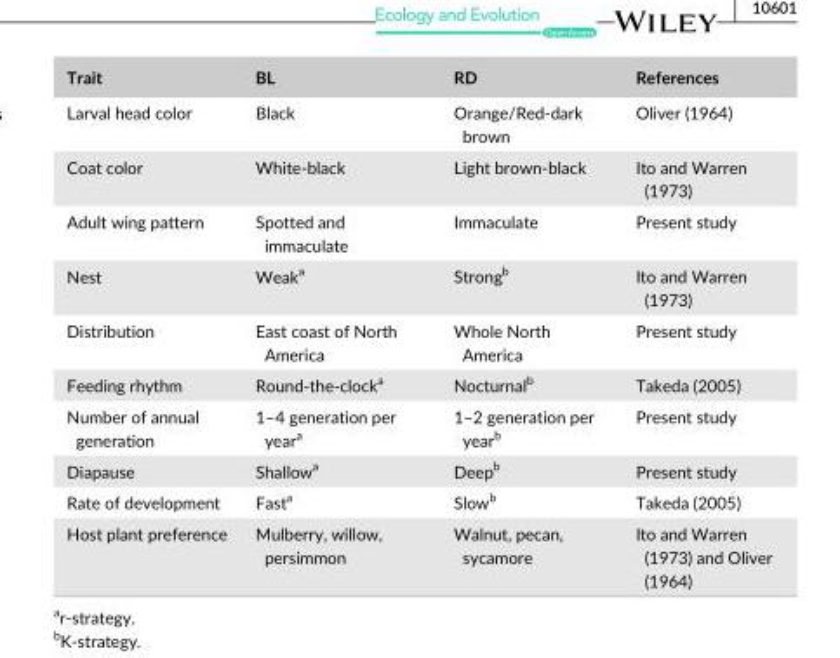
<table><thead><tr><td>Trait</td><td>BL</td><td>RD</td><td>References</td></tr></thead><tbody><tr><td>Larval head color</td><td>Black</td><td>Orange/Red- dark brown</td><td>Oliver (1964)</td></tr><tr><td>Coat color</td><td>White- black</td><td>Light brown- black</td><td>Ito and Warren (1973)</td></tr><tr><td>Adult wing pattern</td><td>Spotted and immaculate</td><td>Immaculate</td><td>Present study</td></tr><tr><td>Nest</td><td>Weak<sup>a</sup></td><td>Strong<sup>b</sup></td><td>Ito and Warren (1973)</td></tr><tr><td>Distribution</td><td>East coast of North America</td><td>Whole North America</td><td>Present study</td></tr><tr><td>Feeding rhythm</td><td>Round- the- clock<sup>a</sup></td><td>Nocturnal<sup>b</sup></td><td>Takeda (2005)</td></tr><tr><td>Number of annual generation</td><td>1–4 generation per year<sup>a</sup></td><td>1–2 generation per year<sup>b</sup></td><td>Present study</td></tr><tr><td>Diapause</td><td>Shallow<sup>a</sup></td><td>Deep<sup>b</sup></td><td>Present study</td></tr><tr><td>Rate of development</td><td>Fast<sup>a</sup></td><td>Slow<sup>b</sup></td><td>Takeda (2005)</td></tr><tr><td>Host plant preference</td><td>Mulberry, willow, persimmon</td><td>Walnut, pecan, sycamore</td><td>Ito and Warren (1973) and Oliver (1964)</td></tr></tbody></table>